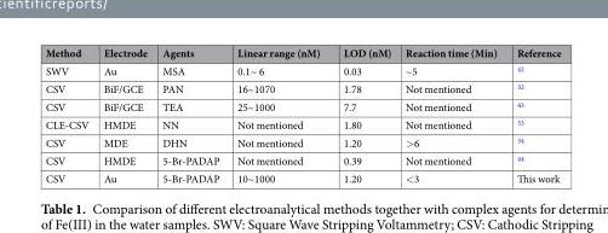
<table><thead><tr><td>Method</td><td>Electrode</td><td>Agents</td><td>Linear range (nM)</td><td>LOD (nM)</td><td>Reaction time (Min)</td><td>Reference</td></tr></thead><tbody><tr><td>SWV</td><td>Au</td><td>MSA</td><td>0.1~ 6</td><td>0.03</td><td>~5</td><td><sup>42</sup></td></tr><tr><td>CSV</td><td>BiF/GCE</td><td>PAN</td><td>16~1070</td><td>1.78</td><td>Not mentioned</td><td><sup>32</sup></td></tr><tr><td>CSV</td><td>BiF/GCE</td><td>TEA</td><td>25~1000</td><td>7.7</td><td>Not mentioned</td><td><sup>43</sup></td></tr><tr><td>CLE-CSV</td><td>HMDE</td><td>NN</td><td>Not mentioned</td><td>1.80</td><td>Not mentioned</td><td><sup>33</sup></td></tr><tr><td>CSV</td><td>MDE</td><td>DHN</td><td>Not mentioned</td><td>1.20</td><td>&gt;6</td><td><sup>34</sup></td></tr><tr><td>CSV</td><td>HMDE</td><td>5-Br-PADAP</td><td>Not mentioned</td><td>0.39</td><td>Not mentioned</td><td><sup>44</sup></td></tr><tr><td>CSV</td><td>Au</td><td>5-Br-PADAP</td><td>10~1000</td><td>1.20</td><td>&lt;3</td><td>This work</td></tr></tbody></table>